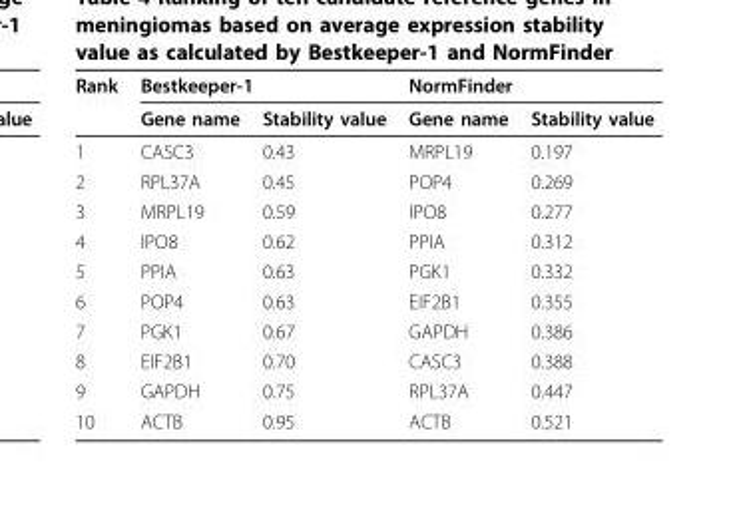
<table><thead><tr><td rowspan="2">Rank</td><td colspan="2">Bestkeeper-1</td><td colspan="2">NormFinder</td></tr><tr><td>Gene name</td><td>Stability value</td><td>Gene name</td><td>Stability value</td></tr></thead><tbody><tr><td>1</td><td>CASC3</td><td>0.43</td><td>MRPL19</td><td>0.197</td></tr><tr><td>2</td><td>RPL37A</td><td>0.45</td><td>POP4</td><td>0.269</td></tr><tr><td>3</td><td>MRPL19</td><td>0.59</td><td>IPO8</td><td>0.277</td></tr><tr><td>4</td><td>IPO8</td><td>0.62</td><td>PPIA</td><td>0.312</td></tr><tr><td>5</td><td>PPIA</td><td>0.63</td><td>PGK1</td><td>0.332</td></tr><tr><td>6</td><td>POP4</td><td>0.63</td><td>EIF2B1</td><td>0.355</td></tr><tr><td>7</td><td>PGK1</td><td>0.67</td><td>GAPDH</td><td>0.386</td></tr><tr><td>8</td><td>EIF2B1</td><td>0.70</td><td>CASC3</td><td>0.388</td></tr><tr><td>9</td><td>GAPDH</td><td>0.75</td><td>RPL37A</td><td>0.447</td></tr><tr><td>10</td><td>ACTB</td><td>0.95</td><td>ACTB</td><td>0.521</td></tr></tbody></table>